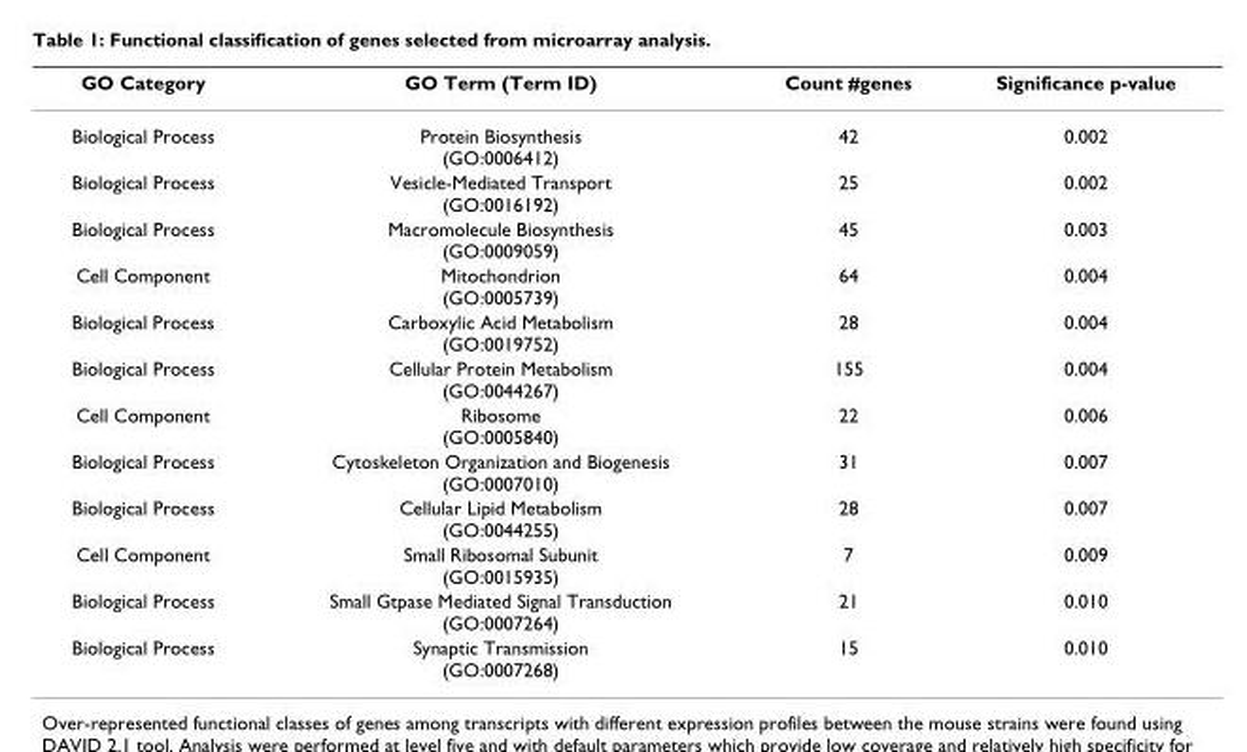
<table><thead><tr><td>GO Category</td><td>GO Term (Term ID)</td><td>Count #genes</td><td>Significance p-value</td></tr></thead><tbody><tr><td>Biological Process</td><td>Protein Biosynthesis (GO:0006412)</td><td>42</td><td>0.002</td></tr><tr><td>Biological Process</td><td>Vesicle-Mediated Transport (GO:0016192)</td><td>25</td><td>0.002</td></tr><tr><td>Biological Process</td><td>Macromolecule Biosynthesis (GO:0009059)</td><td>45</td><td>0.003</td></tr><tr><td>Cell Component</td><td>Mitochondrion (GO:0005739)</td><td>64</td><td>0.004</td></tr><tr><td>Biological Process</td><td>Carboxylic Acid Metabolism (GO:0019752)</td><td>28</td><td>0.004</td></tr><tr><td>Biological Process</td><td>Cellular Protein Metabolism (GO:0044267)</td><td>155</td><td>0.004</td></tr><tr><td>Cell Component</td><td>Ribosome (GO:0005840)</td><td>22</td><td>0.006</td></tr><tr><td>Biological Process</td><td>Cytoskeleton Organization and Biogenesis (GO:0007010)</td><td>31</td><td>0.007</td></tr><tr><td>Biological Process</td><td>Cellular Lipid Metabolism (GO:0044255)</td><td>28</td><td>0.007</td></tr><tr><td>Cell Component</td><td>Small Ribosomal Subunit (GO:0015935)</td><td>7</td><td>0.009</td></tr><tr><td>Biological Process</td><td>Small Gtpase Mediated Signal Transduction (GO:0007264)</td><td>21</td><td>0.010</td></tr><tr><td>Biological Process</td><td>Synaptic Transmission (GO:0007268)</td><td>15</td><td>0.010</td></tr></tbody></table>